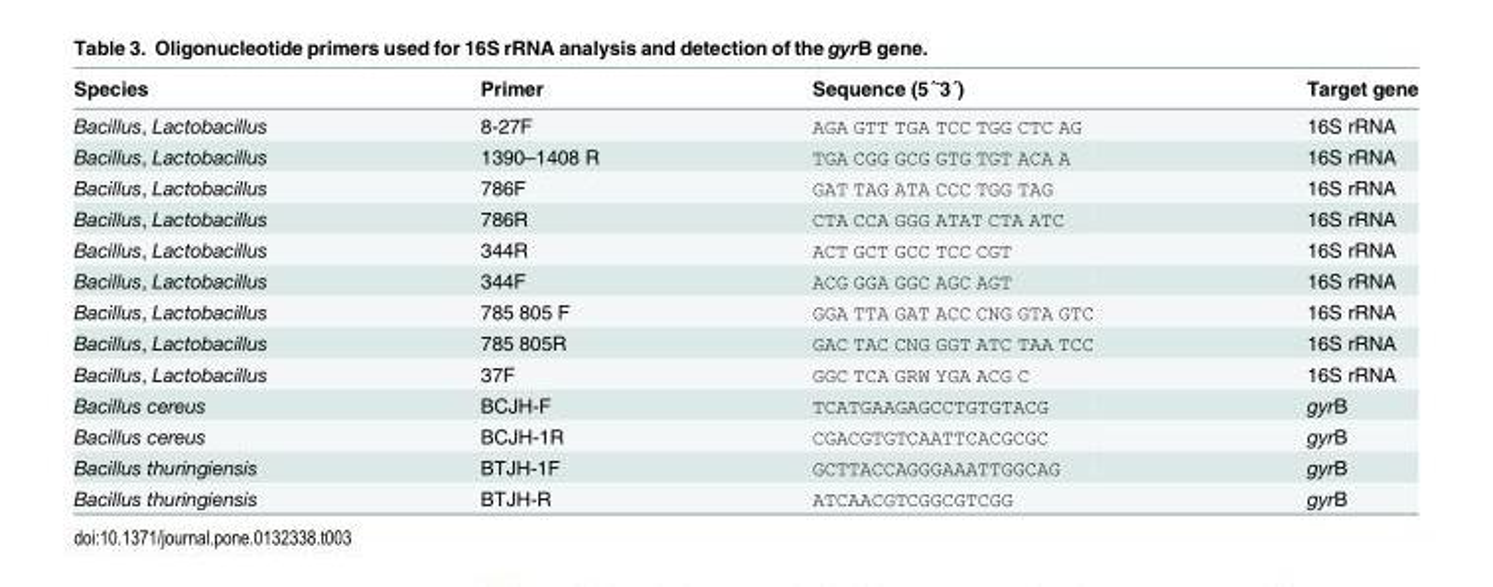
<table><thead><tr><td>Species</td><td>Primer</td><td>Sequence (5´<sup>-</sup>3´)</td><td>Target gene</td></tr></thead><tbody><tr><td>Bacillus, Lactobacillus</td><td>8-27F</td><td>AGA GTT TGA TCC TGG CTC AG</td><td>16S rRNA</td></tr><tr><td>Bacillus, Lactobacillus</td><td>1390–1408 R</td><td>TGA CGG GCG GTG TGT ACA A</td><td>16S rRNA</td></tr><tr><td>Bacillus, Lactobacillus</td><td>786F</td><td>GAT TAG ATA CCC TGG TAG</td><td>16S rRNA</td></tr><tr><td>Bacillus, Lactobacillus</td><td>786R</td><td>CTA CCA GGG ATAT CTA ATC</td><td>16S rRNA</td></tr><tr><td>Bacillus, Lactobacillus</td><td>344R</td><td>ACT GCT GCC TCC CGT</td><td>16S rRNA</td></tr><tr><td>Bacillus, Lactobacillus</td><td>344F</td><td>ACG GGA GGC AGC AGT</td><td>16S rRNA</td></tr><tr><td>Bacillus, Lactobacillus</td><td>785 805 F</td><td>GGA TTA GAT ACC CNG GTA GTC</td><td>16S rRNA</td></tr><tr><td>Bacillus, Lactobacillus</td><td>785 805R</td><td>GAC TAC CNG GGT ATC TAA TCC</td><td>16S rRNA</td></tr><tr><td>Bacillus, Lactobacillus</td><td>37F</td><td>GGC TCA GRW YGA ACG C</td><td>16S rRNA</td></tr><tr><td>Bacillus cereus</td><td>BCJH-F</td><td>TCATGAAGAGCCTGTGTACG</td><td>gyrB</td></tr><tr><td>Bacillus cereus</td><td>BCJH-1R</td><td>CGACGTGTCAATTCACGCGC</td><td>gyrB</td></tr><tr><td>Bacillus thuringiensis</td><td>BTJH-1F</td><td>GCTTACCAGGGAAATTGGCAG</td><td>gyrB</td></tr><tr><td>Bacillus thuringiensis</td><td>BTJH-R</td><td>ATCAACGTCGGCGTCGG</td><td>gyrB</td></tr></tbody></table>